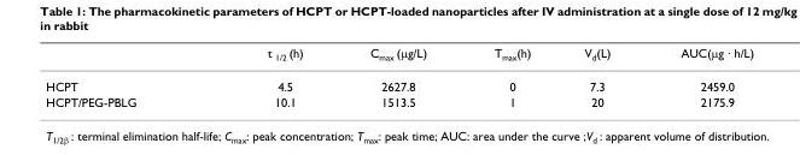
<table><thead><tr><td></td><td>t <sub>1/2</sub> (h)</td><td>C<sub>max</sub> (µg/L)</td><td>T<sub>max</sub>(h)</td><td>V<sub>d</sub>(L)</td><td>AUC(µg · h/L)</td></tr></thead><tbody><tr><td>HCPT</td><td>4.5</td><td>2627.8</td><td>0</td><td>7.3</td><td>2459.0</td></tr><tr><td>HCPT/PEG-PBLG</td><td>10.1</td><td>1513.5</td><td>1</td><td>20</td><td>2175.9</td></tr></tbody></table>